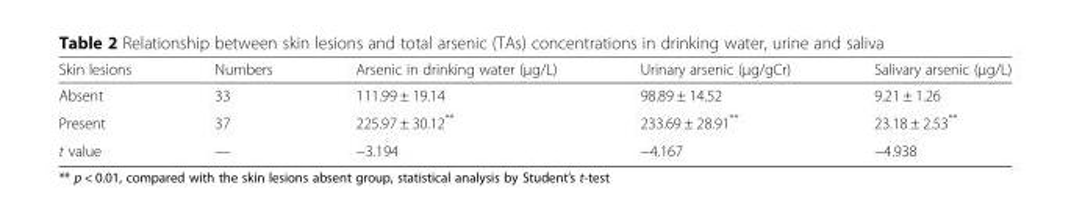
<table><thead><tr><td>Skin lesions</td><td>Numbers</td><td>Arsenic in drinking water (μg/L)</td><td>Urinary arsenic (μg/gCr)</td><td>Salivary arsenic (μg/L)</td></tr></thead><tbody><tr><td>Absent</td><td>33</td><td>111.99 ± 19.14</td><td>98.89 ± 14.52</td><td>9.21 ± 1.26</td></tr><tr><td>Present</td><td>37</td><td>225.97 ± 30.12**</td><td>233.69 ± 28.91**</td><td>23.18 ± 2.53**</td></tr><tr><td>t value</td><td>—</td><td>−3.194</td><td>−4.167</td><td>−4.938</td></tr></tbody></table>